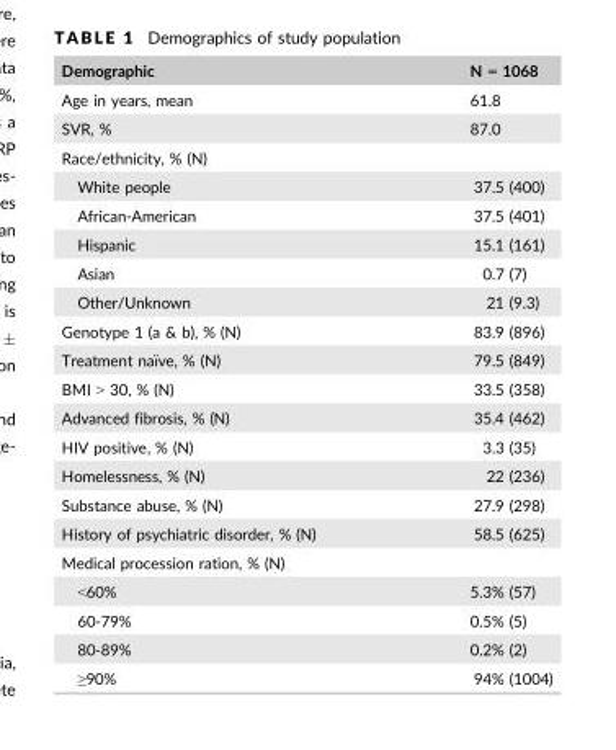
<table><thead><tr><td>Demographic</td><td>N = 1068</td></tr></thead><tbody><tr><td>Age in years, mean</td><td>61.8</td></tr><tr><td>SVR, %</td><td>87.0</td></tr><tr><td colspan="2">Race/ethnicity, % (N)</td></tr><tr><td>White people</td><td>37.5 (400)</td></tr><tr><td>African-American</td><td>37.5 (401)</td></tr><tr><td>Hispanic</td><td>15.1 (161)</td></tr><tr><td>Asian</td><td>0.7 (7)</td></tr><tr><td>Other/Unknown</td><td>21 (9.3)</td></tr><tr><td>Genotype 1 (a &amp; b), % (N)</td><td>83.9 (896)</td></tr><tr><td>Treatment na€ıve, % (N)</td><td>79.5 (849)</td></tr><tr><td>BMI &gt; 30, % (N)</td><td>33.5 (358)</td></tr><tr><td>Advanced fibrosis, % (N)</td><td>35.4 (462)</td></tr><tr><td>HIV positive, % (N)</td><td>3.3 (35)</td></tr><tr><td>Homelessness, % (N)</td><td>22 (236)</td></tr><tr><td>Substance abuse, % (N)</td><td>27.9 (298)</td></tr><tr><td>History of psychiatric disorder, % (N)</td><td>58.5 (625)</td></tr><tr><td colspan="2">Medical procession ration, % (N)</td></tr><tr><td>&lt;60%</td><td>5.3% (57)</td></tr><tr><td>60-79%</td><td>0.5% (5)</td></tr><tr><td>80-89%</td><td>0.2% (2)</td></tr><tr><td>≥90%</td><td>94% (1004)</td></tr></tbody></table>